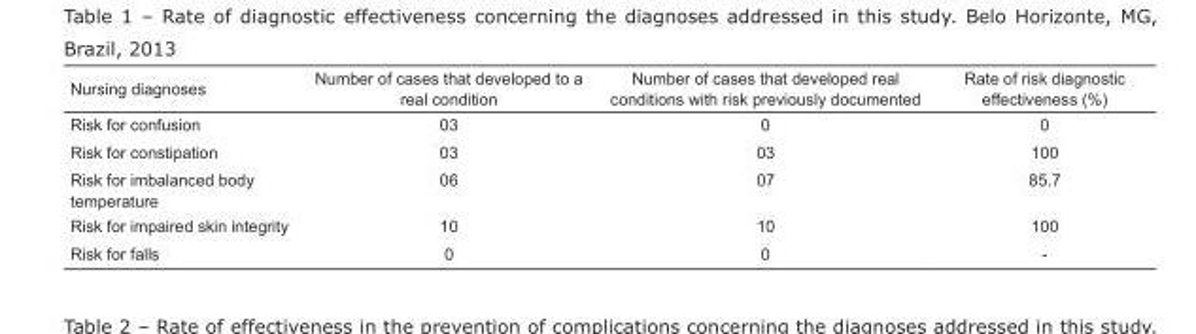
<table><thead><tr><td>Nursing diagnoses</td><td>Number of cases that developed to a real condition</td><td>Number of cases that developed real conditions with risk previously documented</td><td>Rate of risk diagnostic effectiveness (%)</td></tr></thead><tbody><tr><td>Risk for confusion</td><td>03</td><td>0</td><td>0</td></tr><tr><td>Risk for constipation</td><td>03</td><td>03</td><td>100</td></tr><tr><td>Risk for imbalanced body temperature</td><td>06</td><td>07</td><td>85.7</td></tr><tr><td>Risk for impaired skin integrity</td><td>10</td><td>10</td><td>100</td></tr><tr><td>Risk for falls</td><td>0</td><td>0</td><td>-</td></tr></tbody></table>